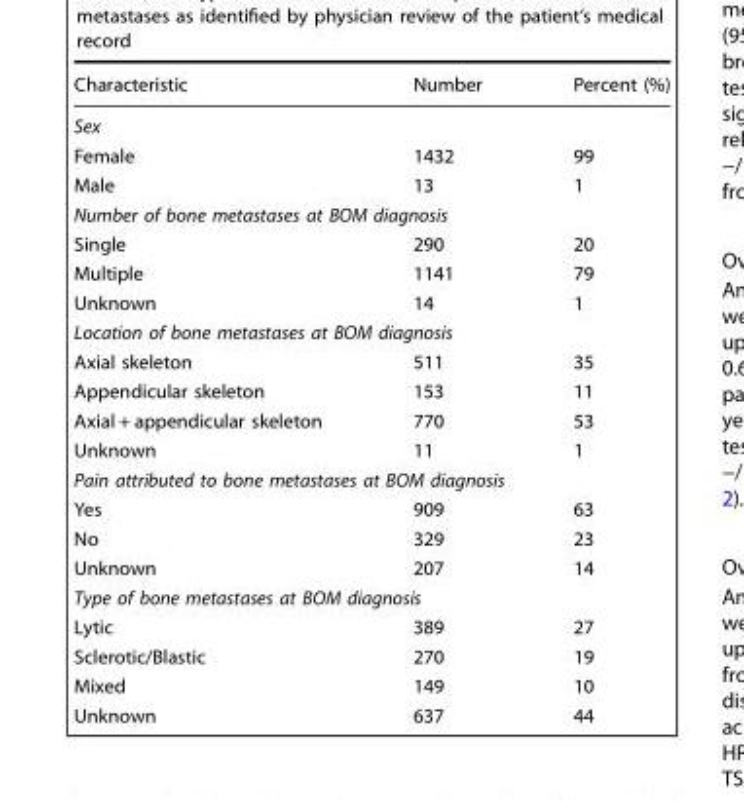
<table><thead><tr><td>Characteristic</td><td>Number</td><td>Percent (%)</td></tr></thead><tbody><tr><td colspan="3">Sex</td></tr><tr><td>Female</td><td>1432</td><td>99</td></tr><tr><td>Male</td><td>13</td><td>1</td></tr><tr><td colspan="3">Number of bone metastases at BOM diagnosis</td></tr><tr><td>Single</td><td>290</td><td>20</td></tr><tr><td>Multiple</td><td>1141</td><td>79</td></tr><tr><td>Unknown</td><td>14</td><td>1</td></tr><tr><td colspan="3">Location of bone metastases at BOM diagnosis</td></tr><tr><td>Axial skeleton</td><td>511</td><td>35</td></tr><tr><td>Appendicular skeleton</td><td>153</td><td>11</td></tr><tr><td>Axial + appendicular skeleton</td><td>770</td><td>53</td></tr><tr><td>Unknown</td><td>11</td><td>1</td></tr><tr><td colspan="3">Pain attributed to bone metastases at BOM diagnosis</td></tr><tr><td>Yes</td><td>909</td><td>63</td></tr><tr><td>No</td><td>329</td><td>23</td></tr><tr><td>Unknown</td><td>207</td><td>14</td></tr><tr><td colspan="3">Type of bone metastases at BOM diagnosis</td></tr><tr><td>Lytic</td><td>389</td><td>27</td></tr><tr><td>Sclerotic/Blastic</td><td>270</td><td>19</td></tr><tr><td>Mixed</td><td>149</td><td>10</td></tr><tr><td>Unknown</td><td>637</td><td>44</td></tr></tbody></table>